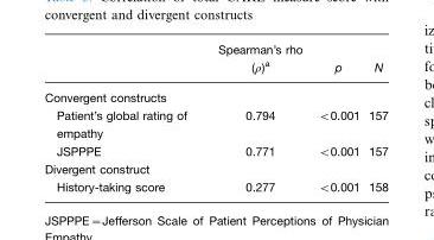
<table><thead><tr><td></td><td>Spearman’s rho (ρ)<sup>a</sup></td><td>p</td><td>N</td></tr></thead><tbody><tr><td colspan="4">Convergent constructs</td></tr><tr><td>Patient’s global rating of empathy</td><td>0.794</td><td>&lt;0.001</td><td>157</td></tr><tr><td>JSPPPE</td><td>0.771</td><td>&lt;0.001</td><td>157</td></tr><tr><td colspan="4">Divergent construct</td></tr><tr><td>History-taking score</td><td>0.277</td><td>&lt;0.001</td><td>158</td></tr></tbody></table>